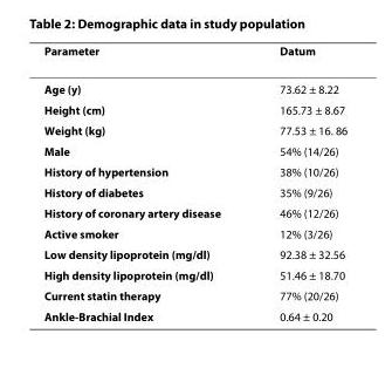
<table><thead><tr><td>Parameter</td><td>Datum</td></tr></thead><tbody><tr><td>Age (y)</td><td>73.62 ± 8.22</td></tr><tr><td>Height (cm)</td><td>165.73 ± 8.67</td></tr><tr><td>Weight (kg)</td><td>77.53 ± 16. 86</td></tr><tr><td>Male</td><td>54% (14/26)</td></tr><tr><td>History of hypertension</td><td>38% (10/26)</td></tr><tr><td>History of diabetes</td><td>35% (9/26)</td></tr><tr><td>History of coronary artery disease</td><td>46% (12/26)</td></tr><tr><td>Active smoker</td><td>12% (3/26)</td></tr><tr><td>Low density lipoprotein (mg/dl)</td><td>92.38 ± 32.56</td></tr><tr><td>High density lipoprotein (mg/dl)</td><td>51.46 ± 18.70</td></tr><tr><td>Current statin therapy</td><td>77% (20/26)</td></tr><tr><td>Ankle-Brachial Index</td><td>0.64 ± 0.20</td></tr></tbody></table>